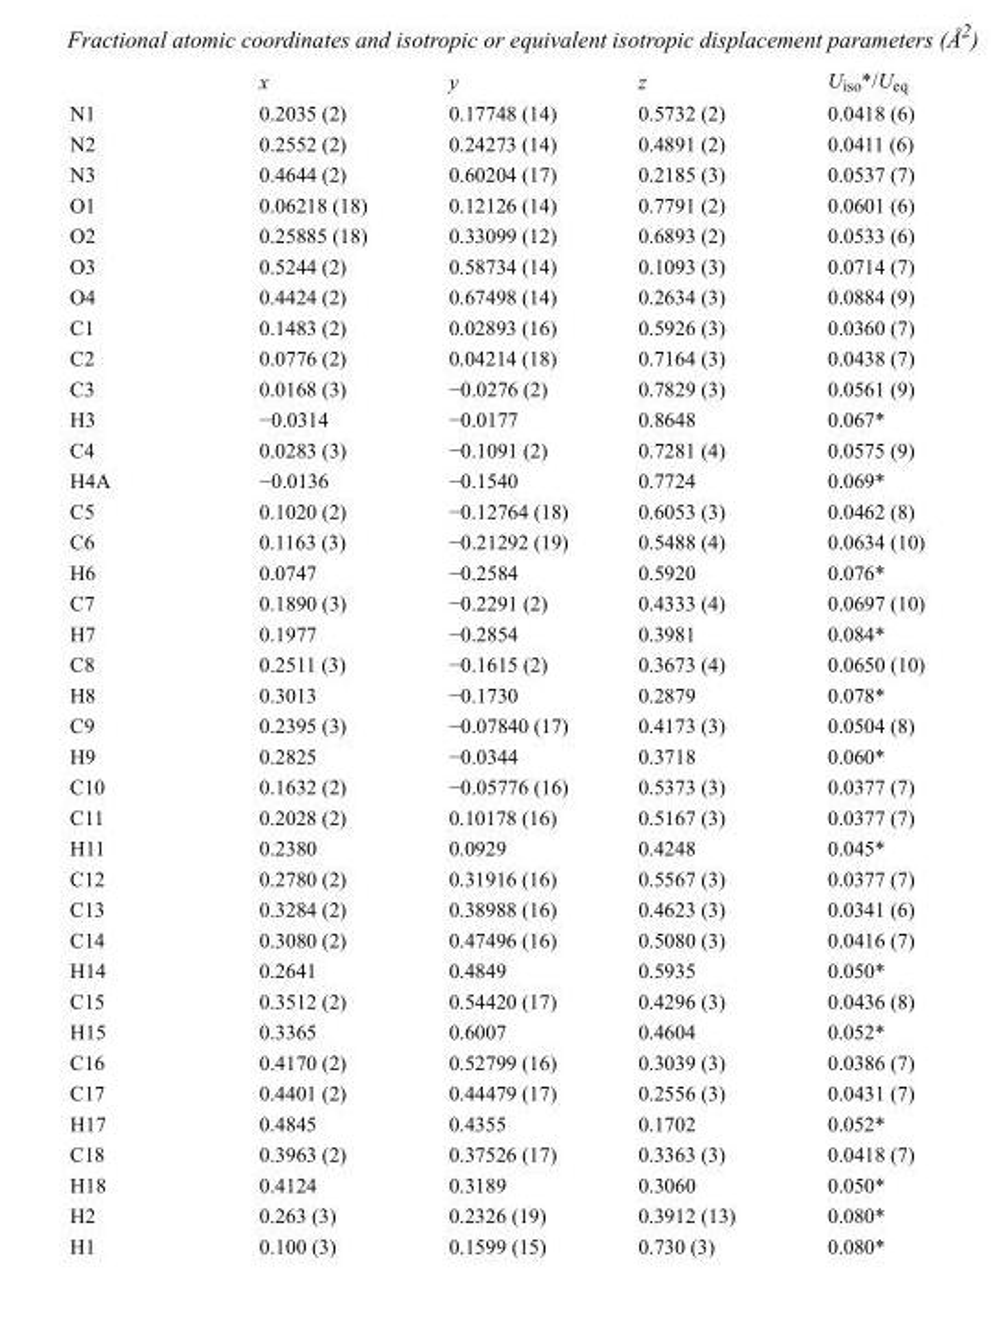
<table><thead><tr><td></td><td>x</td><td>y</td><td>z</td><td>U<sub>iso</sub>*/U<sub>eq</sub></td></tr></thead><tbody><tr><td>N1</td><td>0.2035 (2)</td><td>0.17748 (14)</td><td>0.5732 (2)</td><td>0.0418 (6)</td></tr><tr><td>N2</td><td>0.2552 (2)</td><td>0.24273 (14)</td><td>0.4891 (2)</td><td>0.0411 (6)</td></tr><tr><td>N3</td><td>0.4644 (2)</td><td>0.60204 (17)</td><td>0.2185 (3)</td><td>0.0537 (7)</td></tr><tr><td>O1</td><td>0.06218 (18)</td><td>0.12126 (14)</td><td>0.7791 (2)</td><td>0.0601 (6)</td></tr><tr><td>O2</td><td>0.25885 (18)</td><td>0.33099 (12)</td><td>0.6893 (2)</td><td>0.0533 (6)</td></tr><tr><td>O3</td><td>0.5244 (2)</td><td>0.58734 (14)</td><td>0.1093 (3)</td><td>0.0714 (7)</td></tr><tr><td>O4</td><td>0.4424 (2)</td><td>0.67498 (14)</td><td>0.2634 (3)</td><td>0.0884 (9)</td></tr><tr><td>C1</td><td>0.1483 (2)</td><td>0.02893 (16)</td><td>0.5926 (3)</td><td>0.0360 (7)</td></tr><tr><td>C2</td><td>0.0776 (2)</td><td>0.04214 (18)</td><td>0.7164 (3)</td><td>0.0438 (7)</td></tr><tr><td>C3</td><td>0.0168 (3)</td><td>−0.0276 (2)</td><td>0.7829 (3)</td><td>0.0561 (9)</td></tr><tr><td>H3</td><td>−0.0314</td><td>−0.0177</td><td>0.8648</td><td>0.067*</td></tr><tr><td>C4</td><td>0.0283 (3)</td><td>−0.1091 (2)</td><td>0.7281 (4)</td><td>0.0575 (9)</td></tr><tr><td>H4A</td><td>−0.0136</td><td>−0.1540</td><td>0.7724</td><td>0.069*</td></tr><tr><td>C5</td><td>0.1020 (2)</td><td>−0.12764 (18)</td><td>0.6053 (3)</td><td>0.0462 (8)</td></tr><tr><td>C6</td><td>0.1163 (3)</td><td>−0.21292 (19)</td><td>0.5488 (4)</td><td>0.0634 (10)</td></tr><tr><td>H6</td><td>0.0747</td><td>−0.2584</td><td>0.5920</td><td>0.076*</td></tr><tr><td>C7</td><td>0.1890 (3)</td><td>−0.2291 (2)</td><td>0.4333 (4)</td><td>0.0697 (10)</td></tr><tr><td>H7</td><td>0.1977</td><td>−0.2854</td><td>0.3981</td><td>0.084*</td></tr><tr><td>C8</td><td>0.2511 (3)</td><td>−0.1615 (2)</td><td>0.3673 (4)</td><td>0.0650 (10)</td></tr><tr><td>H8</td><td>0.3013</td><td>−0.1730</td><td>0.2879</td><td>0.078*</td></tr><tr><td>C9</td><td>0.2395 (3)</td><td>−0.07840 (17)</td><td>0.4173 (3)</td><td>0.0504 (8)</td></tr><tr><td>H9</td><td>0.2825</td><td>−0.0344</td><td>0.3718</td><td>0.060*</td></tr><tr><td>C10</td><td>0.1632 (2)</td><td>−0.05776 (16)</td><td>0.5373 (3)</td><td>0.0377 (7)</td></tr><tr><td>C11</td><td>0.2028 (2)</td><td>0.10178 (16)</td><td>0.5167 (3)</td><td>0.0377 (7)</td></tr><tr><td>H11</td><td>0.2380</td><td>0.0929</td><td>0.4248</td><td>0.045*</td></tr><tr><td>C12</td><td>0.2780 (2)</td><td>0.31916 (16)</td><td>0.5567 (3)</td><td>0.0377 (7)</td></tr><tr><td>C13</td><td>0.3284 (2)</td><td>0.38988 (16)</td><td>0.4623 (3)</td><td>0.0341 (6)</td></tr><tr><td>C14</td><td>0.3080 (2)</td><td>0.47496 (16)</td><td>0.5080 (3)</td><td>0.0416 (7)</td></tr><tr><td>H14</td><td>0.2641</td><td>0.4849</td><td>0.5935</td><td>0.050*</td></tr><tr><td>C15</td><td>0.3512 (2)</td><td>0.54420 (17)</td><td>0.4296 (3)</td><td>0.0436 (8)</td></tr><tr><td>H15</td><td>0.3365</td><td>0.6007</td><td>0.4604</td><td>0.052*</td></tr><tr><td>C16</td><td>0.4170 (2)</td><td>0.52799 (16)</td><td>0.3039 (3)</td><td>0.0386 (7)</td></tr><tr><td>C17</td><td>0.4401 (2)</td><td>0.44479 (17)</td><td>0.2556 (3)</td><td>0.0431 (7)</td></tr><tr><td>H17</td><td>0.4845</td><td>0.4355</td><td>0.1702</td><td>0.052*</td></tr><tr><td>C18</td><td>0.3963 (2)</td><td>0.37526 (17)</td><td>0.3363 (3)</td><td>0.0418 (7)</td></tr><tr><td>H18</td><td>0.4124</td><td>0.3189</td><td>0.3060</td><td>0.050*</td></tr><tr><td>H2</td><td>0.263 (3)</td><td>0.2326 (19)</td><td>0.3912 (13)</td><td>0.080*</td></tr><tr><td>H1</td><td>0.100 (3)</td><td>0.1599 (15)</td><td>0.730 (3)</td><td>0.080*</td></tr></tbody></table>